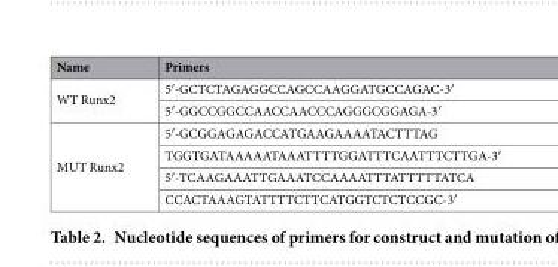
<table><thead><tr><td>Name</td><td>Primers</td></tr></thead><tbody><tr><td rowspan="2">WT Runx2</td><td>5′-GCTCTAGAGGCCAGCCAAGGATGCCAGAC-3′</td></tr><tr><td>5′-GGCCGGCCAACCAACCCAGGGCGGAGA-3′</td></tr><tr><td rowspan="4">MUT Runx2</td><td>5′-GCGGAGAGACCATGAAGAAAATACTTTAG</td></tr><tr><td>TGGTGATAAAAATAAATTTTGGATTTCAATTTCTTGA-3′</td></tr><tr><td>5′-TCAAGAAATTGAAATCCAAAATTTATTTTTATCA</td></tr><tr><td>CCACTAAAGTATTTTCTTCATGGTCTCTCCGC-3′</td></tr></tbody></table>